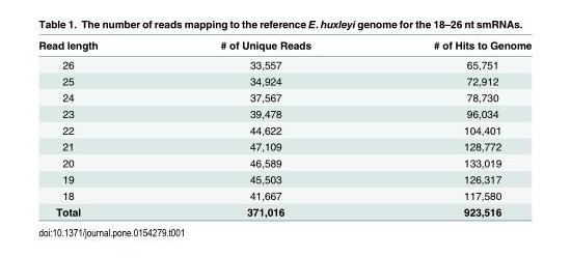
<table><thead><tr><td>Read length</td><td># of Unique Reads</td><td># of Hits to Genome</td></tr></thead><tbody><tr><td>26</td><td>33,557</td><td>65,751</td></tr><tr><td>25</td><td>34,924</td><td>72,912</td></tr><tr><td>24</td><td>37,567</td><td>78,730</td></tr><tr><td>23</td><td>39,478</td><td>96,034</td></tr><tr><td>22</td><td>44,622</td><td>104,401</td></tr><tr><td>21</td><td>47,109</td><td>128,772</td></tr><tr><td>20</td><td>46,589</td><td>133,019</td></tr><tr><td>19</td><td>45,503</td><td>126,317</td></tr><tr><td>18</td><td>41,667</td><td>117,580</td></tr><tr><td>Total</td><td>371,016</td><td>923,516</td></tr></tbody></table>